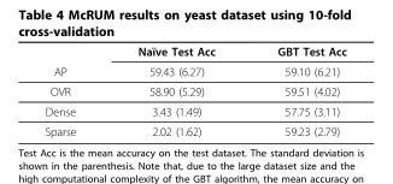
<table><thead><tr><td rowspan="2">AP</td><td rowspan="2">Naïve Test Acc 59.43 (6.27)</td><td rowspan="2">GBT Test Acc 59.10 (6.21)</td></tr><tr></tr></thead><tbody><tr><td>OVR</td><td>58.90 (5.29)</td><td>59.51 (4.02)</td></tr><tr><td>Dense</td><td>3.43 (1.49)</td><td>57.75 (3.11)</td></tr><tr><td>Sparse</td><td>2.02 (1.62)</td><td>59.23 (2.79)</td></tr></tbody></table>